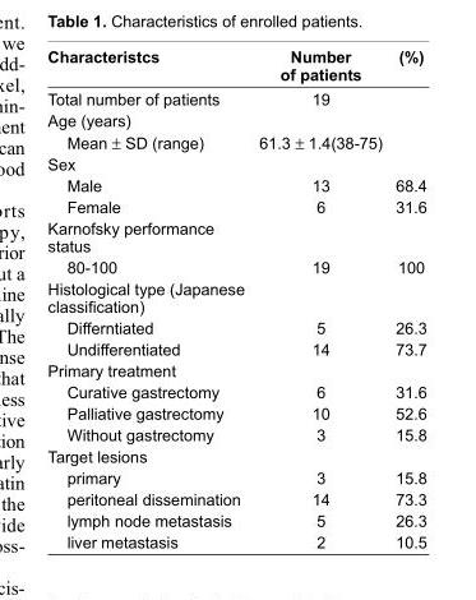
<table><thead><tr><td>Characteristcs</td><td>Number of patients</td><td>(%)</td></tr></thead><tbody><tr><td>Total number of patients</td><td>19</td><td></td></tr><tr><td colspan="3">Age (years)</td></tr><tr><td>Mean ± SD (range)</td><td>61.3 ± 1.4(38-75)</td><td></td></tr><tr><td colspan="3">Sex</td></tr><tr><td>Male</td><td>13</td><td>68.4</td></tr><tr><td>Female</td><td>6</td><td>31.6</td></tr><tr><td colspan="3">Karnofsky performance status</td></tr><tr><td>80-100</td><td>19</td><td>100</td></tr><tr><td colspan="3">Histological type (Japanese classifi cation)</td></tr><tr><td>Differntiated</td><td>5</td><td>26.3</td></tr><tr><td>Undifferentiated</td><td>14</td><td>73.7</td></tr><tr><td colspan="3">Primary treatment</td></tr><tr><td>Curative gastrectomy</td><td>6</td><td>31.6</td></tr><tr><td>Palliative gastrectomy</td><td>10</td><td>52.6</td></tr><tr><td>Without gastrectomy</td><td>3</td><td>15.8</td></tr><tr><td colspan="3">Target lesions</td></tr><tr><td>primary</td><td>3</td><td>15.8</td></tr><tr><td>peritoneal dissemination</td><td>14</td><td>73.3</td></tr><tr><td>lymph node metastasis</td><td>5</td><td>26.3</td></tr><tr><td>liver metastasis</td><td>2</td><td>10.5</td></tr></tbody></table>